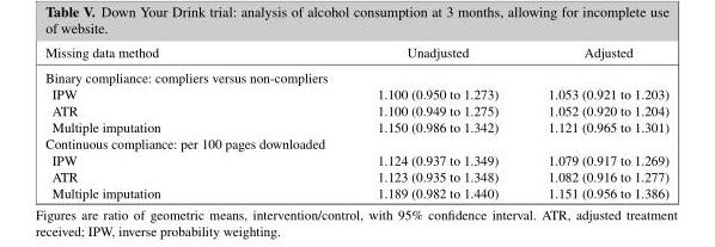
<table><thead><tr><td>Missing data method</td><td>Unadjusted</td><td>Adjusted</td></tr></thead><tbody><tr><td colspan="3">Binary compliance: compliers versus non-compliers</td></tr><tr><td>IPW</td><td>1.100 (0.950 to 1.273)</td><td>1.053 (0.921 to 1.203)</td></tr><tr><td>ATR</td><td>1.100 (0.949 to 1.275)</td><td>1.052 (0.920 to 1.204)</td></tr><tr><td>Multiple imputation</td><td>1.150 (0.986 to 1.342)</td><td>1.121 (0.965 to 1.301)</td></tr><tr><td colspan="3">Continuous compliance: per 100 pages downloaded</td></tr><tr><td>IPW</td><td>1.124 (0.937 to 1.349)</td><td>1.079 (0.917 to 1.269)</td></tr><tr><td>ATR</td><td>1.123 (0.935 to 1.348)</td><td>1.082 (0.916 to 1.277)</td></tr><tr><td>Multiple imputation</td><td>1.189 (0.982 to 1.440)</td><td>1.151 (0.956 to 1.386)</td></tr></tbody></table>